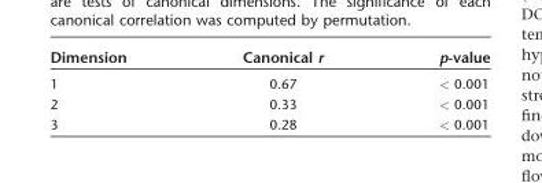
<table><thead><tr><td>Dimension</td><td>Canonical r</td><td>p-value</td></tr></thead><tbody><tr><td>1</td><td>0.67</td><td>&lt; 0.001</td></tr><tr><td>2</td><td>0.33</td><td>&lt; 0.001</td></tr><tr><td>3</td><td>0.28</td><td>&lt; 0.001</td></tr></tbody></table>